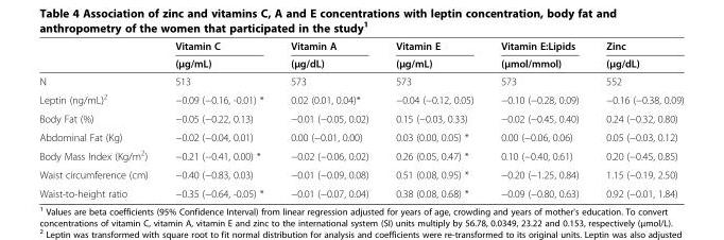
<table><thead><tr><td rowspan="2"></td><td rowspan="2">Vitamin C (μg/mL)</td><td rowspan="2">Vitamin A (μg/dL)</td><td rowspan="2">Vitamin E (μg/mL)</td><td rowspan="2">Vitamin E:Lipids (μmol/mmol)</td><td rowspan="2">Zinc (μg/dL)</td></tr><tr></tr></thead><tbody><tr><td>N</td><td>513</td><td>573</td><td>573</td><td>573</td><td>552</td></tr><tr><td>Leptin (ng/mL)<sup>2</sup></td><td>−0.09 (−0.16, -0.01) *</td><td>0.02 (0.01, 0.04)*</td><td>−0.04 (−0.12, 0.05)</td><td>−0.10 (−0.28, 0.09)</td><td>−0.16 (−0.38, 0.09)</td></tr><tr><td>Body Fat (%)</td><td>−0.05 (−0.22, 0.13)</td><td>−0.01 (−0.05, 0.02)</td><td>0.15 (−0.03, 0.33)</td><td>−0.02 (−0.45, 0.40)</td><td>0.24 (−0.32, 0.80)</td></tr><tr><td>Abdominal Fat (Kg)</td><td>−0.02 (−0.04, 0.01)</td><td>0.00 (−0.01, 0.00)</td><td>0.03 (0.00, 0.05) *</td><td>0.00 (−0.06, 0.06)</td><td>0.05 (−0.03, 0.12)</td></tr><tr><td>Body Mass Index (Kg/m<sup>2</sup>)</td><td>−0.21 (−0.41, 0.00) *</td><td>−0.02 (−0.06, 0.02)</td><td>0.26 (0.05, 0.47) *</td><td>0.10 (−0.40, 0.61)</td><td>0.20 (−0.45, 0.85)</td></tr><tr><td>Waist circumference (cm)</td><td>−0.40 (−0.83, 0.03)</td><td>−0.01 (−0.09, 0.08)</td><td>0.51 (0.08, 0.95) *</td><td>−0.20 (−1.25, 0.84)</td><td>1.15 (−0.19, 2.50)</td></tr><tr><td>Waist-to-height ratio</td><td>−0.35 (−0.64, -0.05) *</td><td>−0.01 (−0.07, 0.04)</td><td>0.38 (0.08, 0.68) *</td><td>−0.09 (−0.80, 0.63)</td><td>0.92 (−0.01, 1.84)</td></tr></tbody></table>